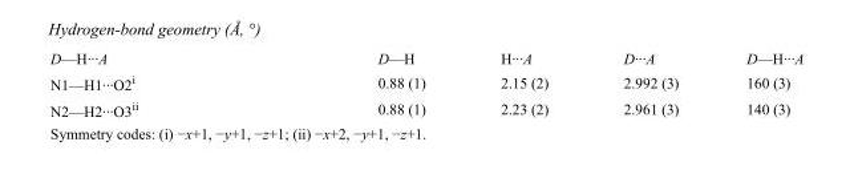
<table><tbody><tr><td>D—H···A</td><td>D—H</td><td>H···A</td><td>D···A</td><td>D—H···A</td></tr><tr><td>N1—H1···O2<sup>i</sup></td><td>0.88 (1)</td><td>2.15 (2)</td><td>2.992 (3)</td><td>160 (3)</td></tr><tr><td>N2—H2···O3<sup>ii</sup></td><td>0.88 (1)</td><td>2.23 (2)</td><td>2.961 (3)</td><td>140 (3)</td></tr></tbody></table>